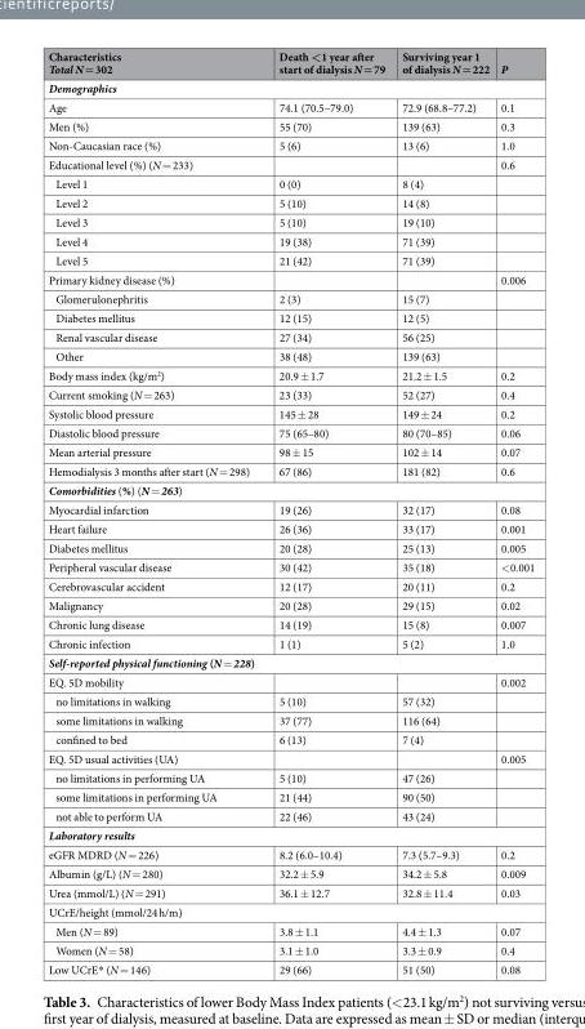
<table><thead><tr><td>Characteristics Total N = 302</td><td>Death &lt;1 year after start of dialysis N = 79</td><td>Surviving year 1 of dialysis N = 222</td><td>P</td></tr></thead><tbody><tr><td colspan="4">Demographics</td></tr><tr><td>Age</td><td>74.1 (70.5–79.0)</td><td>72.9 (68.8–77.2)</td><td>0.1</td></tr><tr><td>Men (%)</td><td>55 (70)</td><td>139 (63)</td><td>0.3</td></tr><tr><td>Non-Caucasian race (%)</td><td>5 (6)</td><td>13 (6)</td><td>1.0</td></tr><tr><td>Educational level (%) (N = 233)</td><td></td><td></td><td>0.6</td></tr><tr><td>Level 1</td><td>0 (0)</td><td>8 (4)</td><td></td></tr><tr><td>Level 2</td><td>5 (10)</td><td>14 (8)</td><td></td></tr><tr><td>Level 3</td><td>5 (10)</td><td>19 (10)</td><td></td></tr><tr><td>Level 4</td><td>19 (38)</td><td>71 (39)</td><td></td></tr><tr><td>Level 5</td><td>21 (42)</td><td>71 (39)</td><td></td></tr><tr><td>Primary kidney disease (%)</td><td></td><td></td><td>0.006</td></tr><tr><td>Glomerulonephritis</td><td>2 (3)</td><td>15 (7)</td><td></td></tr><tr><td>Diabetes mellitus</td><td>12 (15)</td><td>12 (5)</td><td></td></tr><tr><td>Renal vascular disease</td><td>27 (34)</td><td>56 (25)</td><td></td></tr><tr><td>Other</td><td>38 (48)</td><td>139 (63)</td><td></td></tr><tr><td>Body mass index (kg/m<sup>2</sup>)</td><td>20.9 ± 1.7</td><td>21.2 ± 1.5</td><td>0.2</td></tr><tr><td>Current smoking (N = 263)</td><td>23 (33)</td><td>52 (27)</td><td>0.4</td></tr><tr><td>Systolic blood pressure</td><td>145 ± 28</td><td>149 ± 24</td><td>0.2</td></tr><tr><td>Diastolic blood pressure</td><td>75 (65–80)</td><td>80 (70–85)</td><td>0.06</td></tr><tr><td>Mean arterial pressure</td><td>98 ± 15</td><td>102 ± 14</td><td>0.07</td></tr><tr><td>Hemodialysis 3 months after start (N = 298)</td><td>67 (86)</td><td>181 (82)</td><td>0.6</td></tr><tr><td colspan="4">Comorbidities (%) (N = 263)</td></tr><tr><td>Myocardial infarction</td><td>19 (26)</td><td>32 (17)</td><td>0.08</td></tr><tr><td>Heart failure</td><td>26 (36)</td><td>33 (17)</td><td>0.001</td></tr><tr><td>Diabetes mellitus</td><td>20 (28)</td><td>25 (13)</td><td>0.005</td></tr><tr><td>Peripheral vascular disease</td><td>30 (42)</td><td>35 (18)</td><td>&lt;0.001</td></tr><tr><td>Cerebrovascular accident</td><td>12 (17)</td><td>20 (11)</td><td>0.2</td></tr><tr><td>Malignancy</td><td>20 (28)</td><td>29 (15)</td><td>0.02</td></tr><tr><td>Chronic lung disease</td><td>14 (19)</td><td>15 (8)</td><td>0.007</td></tr><tr><td>Chronic infection</td><td>1 (1)</td><td>5 (2)</td><td>1.0</td></tr><tr><td colspan="4">Self-reported physical functioning (N = 228)</td></tr><tr><td>EQ. 5D mobility</td><td></td><td></td><td>0.002</td></tr><tr><td>no limitations in walking</td><td>5 (10)</td><td>57 (32)</td><td></td></tr><tr><td>some limitations in walking</td><td>37 (77)</td><td>116 (64)</td><td></td></tr><tr><td>confined to bed</td><td>6 (13)</td><td>7 (4)</td><td></td></tr><tr><td>EQ. 5D usual activities (UA)</td><td></td><td></td><td>0.005</td></tr><tr><td>no limitations in performing UA</td><td>5 (10)</td><td>47 (26)</td><td></td></tr><tr><td>some limitations in performing UA</td><td>21 (44)</td><td>90 (50)</td><td></td></tr><tr><td>not able to perform UA</td><td>22 (46)</td><td>43 (24)</td><td></td></tr><tr><td colspan="4">Laboratory results</td></tr><tr><td>eGFR MDRD (N = 226)</td><td>8.2 (6.0–10.4)</td><td>7.3 (5.7–9.3)</td><td>0.2</td></tr><tr><td>Albumin (g/L) (N = 280)</td><td>32.2 ± 5.9</td><td>34.2 ± 5.8</td><td>0.009</td></tr><tr><td>Urea (mmol/L) (N = 291)</td><td>36.1 ± 12.7</td><td>32.8 ± 11.4</td><td>0.03</td></tr><tr><td colspan="4">UCrE/height (mmol/24 h/m)</td></tr><tr><td>Men (N = 89)</td><td>3.8 ± 1.1</td><td>4.4 ± 1.3</td><td>0.07</td></tr><tr><td>Women (N = 58)</td><td>3.1 ± 1.0</td><td>3.3 ± 0.9</td><td>0.4</td></tr><tr><td>Low UCrE* (N = 146)</td><td>29 (66)</td><td>51 (50)</td><td>0.08</td></tr></tbody></table>